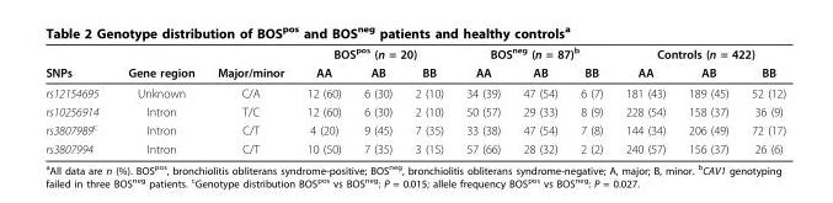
<table><thead><tr><td rowspan="2">SNPs</td><td rowspan="2">Gene region</td><td rowspan="2">Major/minor</td><td colspan="3">BOS<sup>pos</sup> (n = 20)</td><td colspan="3">BOS<sup>neg</sup> (n = 87)<sup>b</sup></td><td colspan="3">Controls (n = 422)</td></tr><tr><td>AA</td><td>AB</td><td>BB</td><td>AA</td><td>AB</td><td>BB</td><td>AA</td><td>AB</td><td>BB</td></tr></thead><tbody><tr><td>rs12154695</td><td>Unknown</td><td>C/A</td><td>12 (60)</td><td>6 (30)</td><td>2 (10)</td><td>34 (39)</td><td>47 (54)</td><td>6 (7)</td><td>181 (43)</td><td>189 (45)</td><td>52 (12)</td></tr><tr><td>rs10256914</td><td>Intron</td><td>T/C</td><td>12 (60)</td><td>6 (30)</td><td>2 (10)</td><td>50 (57)</td><td>29 (33)</td><td>8 (9)</td><td>228 (54)</td><td>158 (37)</td><td>36 (9)</td></tr><tr><td>rs3807989<sup>c</sup></td><td>Intron</td><td>C/T</td><td>4 (20)</td><td>9 (45)</td><td>7 (35)</td><td>33 (38)</td><td>47 (54)</td><td>7 (8)</td><td>144 (34)</td><td>206 (49)</td><td>72 (17)</td></tr><tr><td>rs3807994</td><td>Intron</td><td>C/T</td><td>10 (50)</td><td>7 (35)</td><td>3 (15)</td><td>57 (66)</td><td>28 (32)</td><td>2 (2)</td><td>240 (57)</td><td>156 (37)</td><td>26 (6)</td></tr></tbody></table>